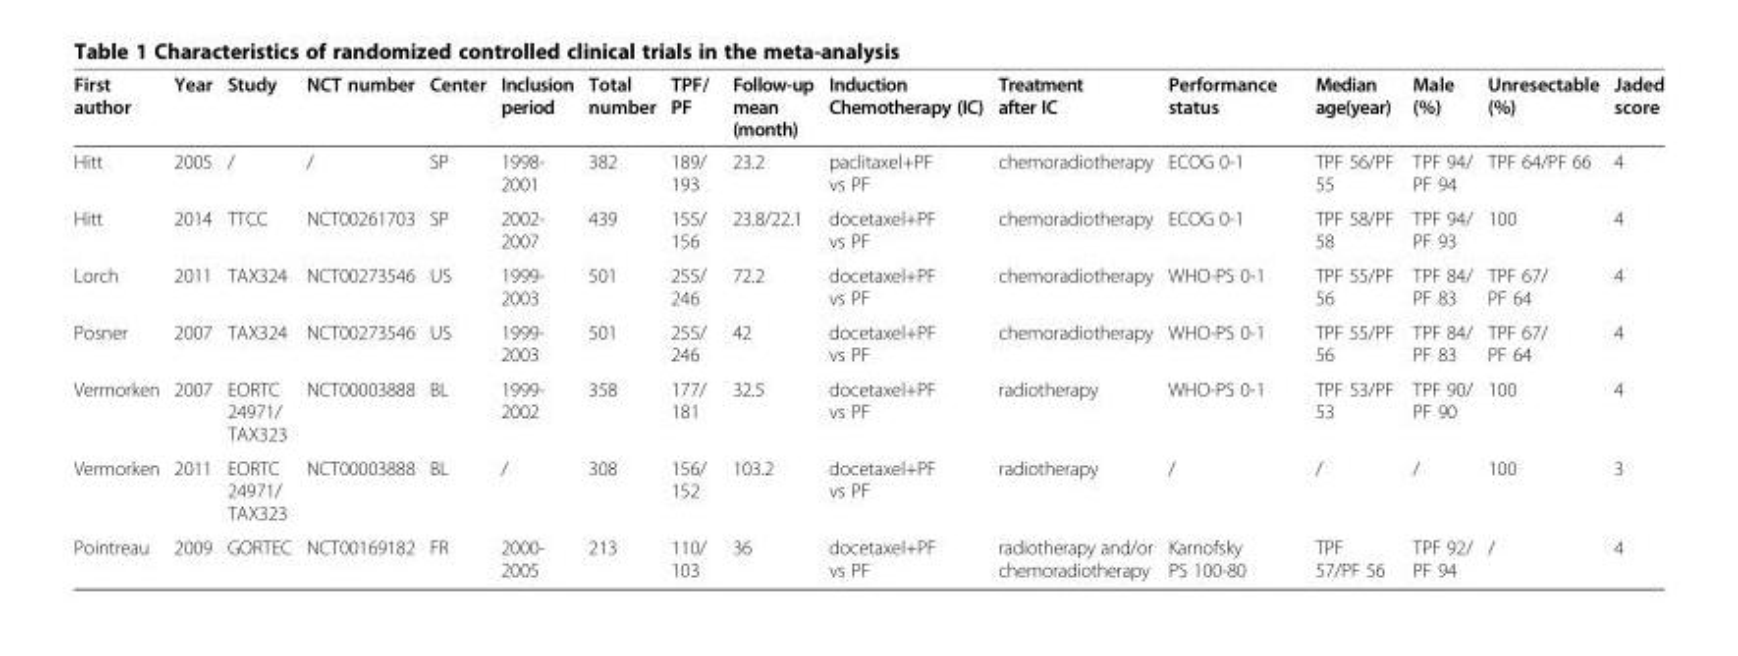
<table><thead><tr><td>First author</td><td>Year</td><td>Study</td><td>NCT number</td><td>Center</td><td>Inclusion period</td><td>Total number</td><td>TPF/ PF</td><td>Follow-up mean (month)</td><td>Induction Chemotherapy (IC)</td><td>Treatment after IC</td><td>Performance status</td><td>Median age(year)</td><td>Male (%)</td><td>Unresectable (%)</td><td>Jaded score</td></tr></thead><tbody><tr><td>Hitt</td><td>2005</td><td>/</td><td>/</td><td>SP</td><td>1998- 2001</td><td>382</td><td>189/ 193</td><td>23.2</td><td>paclitaxel+PF vs PF</td><td>chemoradiotherapy</td><td>ECOG 0-1</td><td>TPF 56/PF 55</td><td>TPF 94/ PF 94</td><td>TPF 64/PF 66</td><td>4</td></tr><tr><td>Hitt</td><td>2014</td><td>TTCC</td><td>NCT00261703</td><td>SP</td><td>2002- 2007</td><td>439</td><td>155/ 156</td><td>23.8/22.1</td><td>docetaxel+PF vs PF</td><td>chemoradiotherapy</td><td>ECOG 0-1</td><td>TPF 58/PF 58</td><td>TPF 94/ PF 93</td><td>100</td><td>4</td></tr><tr><td>Lorch</td><td>2011</td><td>TAX324</td><td>NCT00273546</td><td>US</td><td>1999- 2003</td><td>501</td><td>255/ 246</td><td>72.2</td><td>docetaxel+PF vs PF</td><td>chemoradiotherapy</td><td>WHO-PS 0-1</td><td>TPF 55/PF 56</td><td>TPF 84/ PF 83</td><td>TPF 67/ PF 64</td><td>4</td></tr><tr><td>Posner</td><td>2007</td><td>TAX324</td><td>NCT00273546</td><td>US</td><td>1999- 2003</td><td>501</td><td>255/ 246</td><td>42</td><td>docetaxel+PF vs PF</td><td>chemoradiotherapy</td><td>WHO-PS 0-1</td><td>TPF 55/PF 56</td><td>TPF 84/ PF 83</td><td>TPF 67/ PF 64</td><td>4</td></tr><tr><td>Vermorken</td><td>2007</td><td>EORTC 24971/ TAX323</td><td>NCT00003888</td><td>BL</td><td>1999- 2002</td><td>358</td><td>177/ 181</td><td>32.5</td><td>docetaxel+PF vs PF</td><td>radiotherapy</td><td>WHO-PS 0-1</td><td>TPF 53/PF 53</td><td>TPF 90/ PF 90</td><td>100</td><td>4</td></tr><tr><td>Vermorken</td><td>2011</td><td>EORTC 24971/ TAX323</td><td>NCT00003888</td><td>BL</td><td>/</td><td>308</td><td>156/ 152</td><td>103.2</td><td>docetaxel+PF vs PF</td><td>radiotherapy</td><td>/</td><td>/</td><td>/</td><td>100</td><td>3</td></tr><tr><td>Pointreau</td><td>2009</td><td>GORTEC</td><td>NCT00169182</td><td>FR</td><td>2000- 2005</td><td>213</td><td>110/ 103</td><td>36</td><td>docetaxel+PF vs PF</td><td>radiotherapy and/or chemoradiotherapy</td><td>Karnofsky PS 100-80</td><td>TPF 57/PF 56</td><td>TPF 92/ PF 94</td><td>/</td><td>4</td></tr></tbody></table>